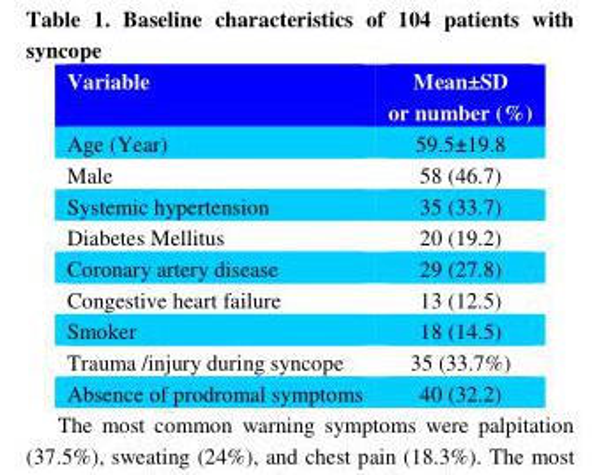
<table><thead><tr><td>Variable</td><td>Mean±SD or number (%)</td></tr></thead><tbody><tr><td>Age (Year)</td><td>59.5±19.8</td></tr><tr><td>Male</td><td>58 (46.7)</td></tr><tr><td>Systemic hypertension</td><td>35 (33.7)</td></tr><tr><td>Diabetes Mellitus</td><td>20 (19.2)</td></tr><tr><td>Coronary artery disease</td><td>29 (27.8)</td></tr><tr><td>Congestive heart failure</td><td>13 (12.5)</td></tr><tr><td>Smoker</td><td>18 (14.5)</td></tr><tr><td>Trauma /injury during syncope</td><td>35 (33.7%)</td></tr><tr><td>Absence of prodromal symptoms</td><td>40 (32.2)</td></tr></tbody></table>